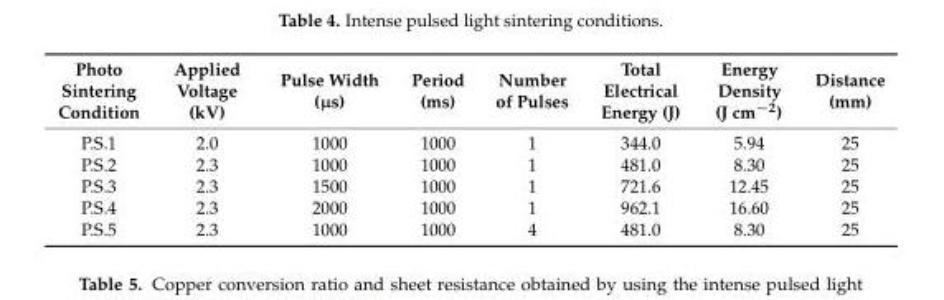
<table><thead><tr><td>Photo Sintering Condition</td><td>Applied Voltage (kV)</td><td>Pulse Width (µs)</td><td>Period (ms)</td><td>Number of Pulses</td><td>Total Electrical Energy (J)</td><td>Energy Density (J cm<sup>−2</sup>)</td><td>Distance (mm)</td></tr></thead><tbody><tr><td>P.S.1</td><td>2.0</td><td>1000</td><td>1000</td><td>1</td><td>344.0</td><td>5.94</td><td>25</td></tr><tr><td>P.S.2</td><td>2.3</td><td>1000</td><td>1000</td><td>1</td><td>481.0</td><td>8.30</td><td>25</td></tr><tr><td>P.S.3</td><td>2.3</td><td>1500</td><td>1000</td><td>1</td><td>721.6</td><td>12.45</td><td>25</td></tr><tr><td>P.S.4</td><td>2.3</td><td>2000</td><td>1000</td><td>1</td><td>962.1</td><td>16.60</td><td>25</td></tr><tr><td>P.S.5</td><td>2.3</td><td>1000</td><td>1000</td><td>4</td><td>481.0</td><td>8.30</td><td>25</td></tr></tbody></table>